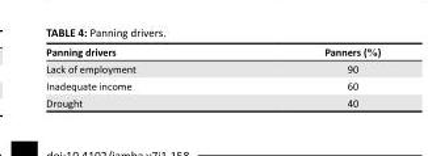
<table><thead><tr><td>Panning drivers</td><td>Panners (%)</td></tr></thead><tbody><tr><td>Lack of employment</td><td>90</td></tr><tr><td>Inadequate income</td><td>60</td></tr><tr><td>Drought</td><td>40</td></tr></tbody></table>